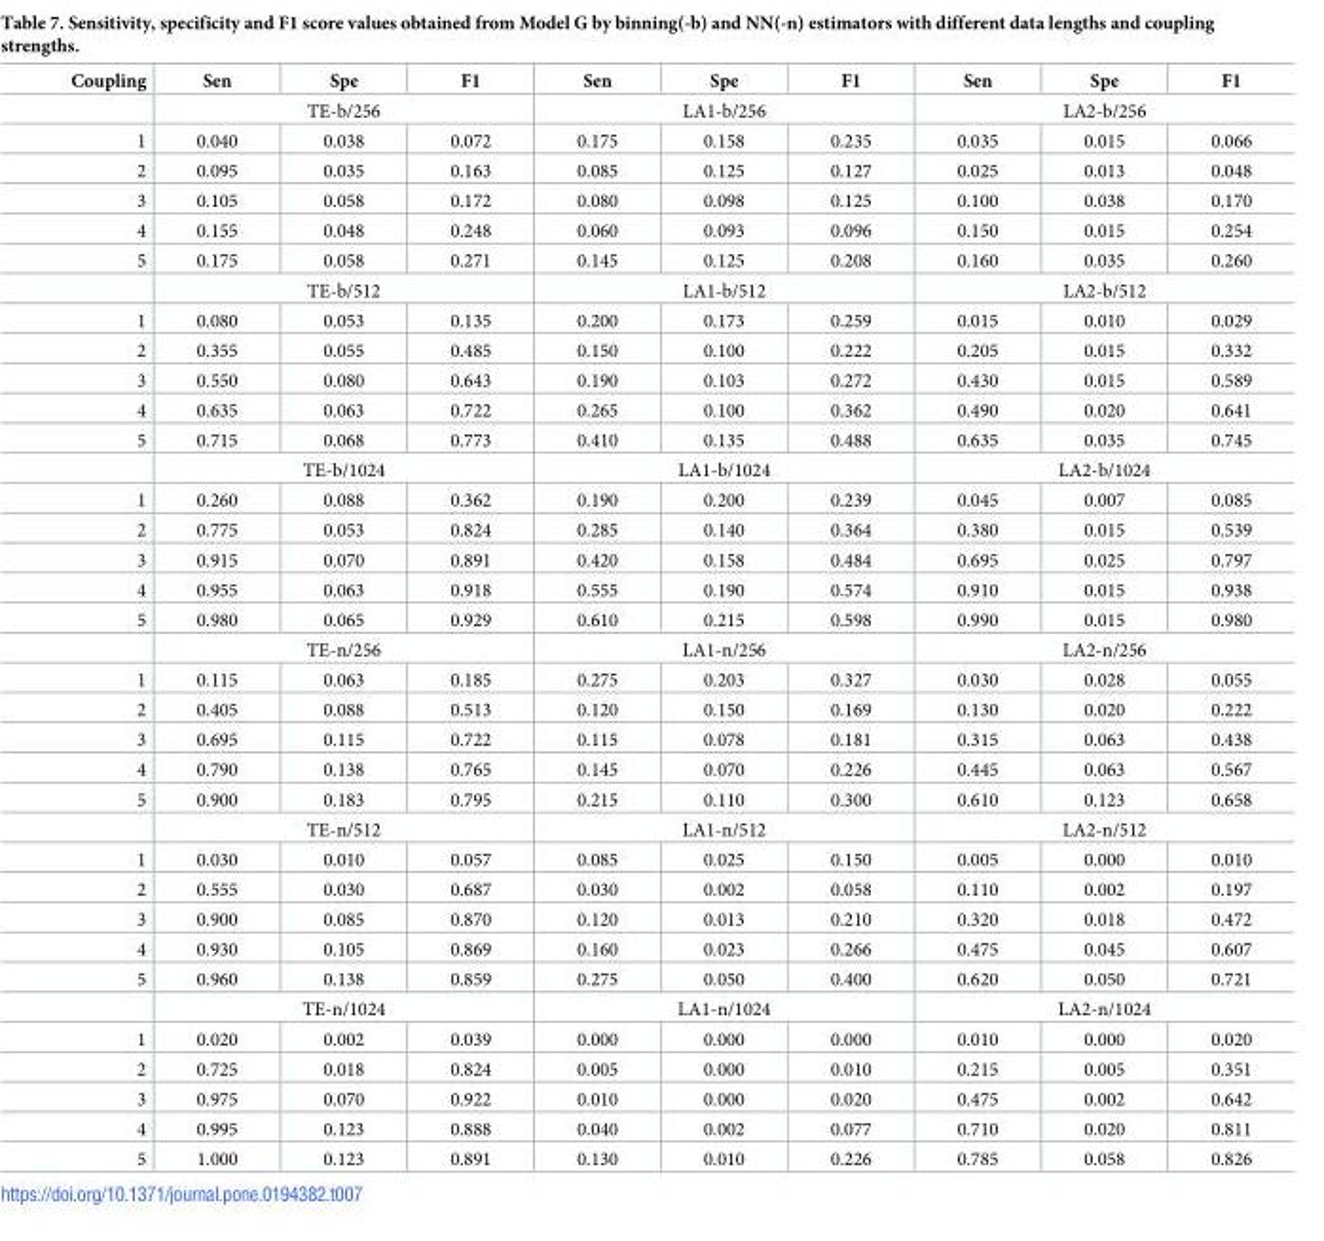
<table><thead><tr><td>Coupling</td><td>Sen</td><td>Spe</td><td>F1</td><td>Sen</td><td>Spe</td><td>F1</td><td>Sen</td><td>Spe</td><td>F1</td></tr></thead><tbody><tr><td></td><td colspan="3">TE-b/256</td><td colspan="3">LA1-b/256</td><td colspan="3">LA2-b/256</td></tr><tr><td>1</td><td>0.040</td><td>0.038</td><td>0.072</td><td>0.175</td><td>0.158</td><td>0.235</td><td>0.035</td><td>0.015</td><td>0.066</td></tr><tr><td>2</td><td>0.095</td><td>0.035</td><td>0.163</td><td>0.085</td><td>0.125</td><td>0.127</td><td>0.025</td><td>0.013</td><td>0.048</td></tr><tr><td>3</td><td>0.105</td><td>0.058</td><td>0.172</td><td>0.080</td><td>0.098</td><td>0.125</td><td>0.100</td><td>0.038</td><td>0.170</td></tr><tr><td>4</td><td>0.155</td><td>0.048</td><td>0.248</td><td>0.060</td><td>0.093</td><td>0.096</td><td>0.150</td><td>0.015</td><td>0.254</td></tr><tr><td rowspan="2">5</td><td>0.175</td><td>0.058</td><td>0.271</td><td>0.145</td><td>0.125</td><td>0.208</td><td>0.160</td><td>0.035</td><td>0.260</td></tr><tr><td colspan="3">TE-b/512</td><td colspan="3">LA1-b/512</td><td colspan="3">LA2-b/512</td></tr><tr><td>1</td><td>0.080</td><td>0.053</td><td>0.135</td><td>0.200</td><td>0.173</td><td>0.259</td><td>0.015</td><td>0.010</td><td>0.029</td></tr><tr><td>2</td><td>0.355</td><td>0.055</td><td>0.485</td><td>0.150</td><td>0.100</td><td>0.222</td><td>0.205</td><td>0.015</td><td>0.332</td></tr><tr><td>3</td><td>0.550</td><td>0.080</td><td>0.643</td><td>0.190</td><td>0.103</td><td>0.272</td><td>0.430</td><td>0.015</td><td>0.589</td></tr><tr><td>4</td><td>0.635</td><td>0.063</td><td>0.722</td><td>0.265</td><td>0.100</td><td>0.362</td><td>0.490</td><td>0.020</td><td>0.641</td></tr><tr><td rowspan="2">5</td><td>0.715</td><td>0.068</td><td>0.773</td><td>0.410</td><td>0.135</td><td>0.488</td><td>0.635</td><td>0.035</td><td>0.745</td></tr><tr><td colspan="3">TE-b/1024</td><td colspan="3">LA1-b/1024</td><td colspan="3">LA2-b/1024</td></tr><tr><td>1</td><td>0.260</td><td>0.088</td><td>0.362</td><td>0.190</td><td>0.200</td><td>0.239</td><td>0.045</td><td>0.007</td><td>0.085</td></tr><tr><td>2</td><td>0.775</td><td>0.053</td><td>0.824</td><td>0.285</td><td>0.140</td><td>0.364</td><td>0.380</td><td>0.015</td><td>0.539</td></tr><tr><td>3</td><td>0.915</td><td>0.070</td><td>0.891</td><td>0.420</td><td>0.158</td><td>0.484</td><td>0.695</td><td>0.025</td><td>0.797</td></tr><tr><td>4</td><td>0.955</td><td>0.063</td><td>0.918</td><td>0.555</td><td>0.190</td><td>0.574</td><td>0.910</td><td>0.015</td><td>0.938</td></tr><tr><td rowspan="2">5</td><td>0.980</td><td>0.065</td><td>0.929</td><td>0.610</td><td>0.215</td><td>0.598</td><td>0.990</td><td>0.015</td><td>0.980</td></tr><tr><td colspan="3">TE-n/256</td><td colspan="3">LA1-n/256</td><td colspan="3">LA2-n/256</td></tr><tr><td>1</td><td>0.115</td><td>0.063</td><td>0.185</td><td>0.275</td><td>0.203</td><td>0.327</td><td>0.030</td><td>0.028</td><td>0.055</td></tr><tr><td>2</td><td>0.405</td><td>0.088</td><td>0.513</td><td>0.120</td><td>0.150</td><td>0.169</td><td>0.130</td><td>0.020</td><td>0.222</td></tr><tr><td>3</td><td>0.695</td><td>0.115</td><td>0.722</td><td>0.115</td><td>0.078</td><td>0.181</td><td>0.315</td><td>0.063</td><td>0.438</td></tr><tr><td>4</td><td>0.790</td><td>0.138</td><td>0.765</td><td>0.145</td><td>0.070</td><td>0.226</td><td>0.445</td><td>0.063</td><td>0.567</td></tr><tr><td rowspan="2">5</td><td>0.900</td><td>0.183</td><td>0.795</td><td>0.215</td><td>0.110</td><td>0.300</td><td>0.610</td><td>0.123</td><td>0.658</td></tr><tr><td colspan="3">TE-n/512</td><td colspan="3">LA1-n/512</td><td colspan="3">LA2-n/512</td></tr><tr><td>1</td><td>0.030</td><td>0.010</td><td>0.057</td><td>0.085</td><td>0.025</td><td>0.150</td><td>0.005</td><td>0.000</td><td>0.010</td></tr><tr><td>2</td><td>0.555</td><td>0.030</td><td>0.687</td><td>0.030</td><td>0.002</td><td>0.058</td><td>0.110</td><td>0.002</td><td>0.197</td></tr><tr><td>3</td><td>0.900</td><td>0.085</td><td>0.870</td><td>0.120</td><td>0.013</td><td>0.210</td><td>0.320</td><td>0.018</td><td>0.472</td></tr><tr><td>4</td><td>0.930</td><td>0.105</td><td>0.869</td><td>0.160</td><td>0.023</td><td>0.266</td><td>0.475</td><td>0.045</td><td>0.607</td></tr><tr><td rowspan="2">5</td><td>0.960</td><td>0.138</td><td>0.859</td><td>0.275</td><td>0.050</td><td>0.400</td><td>0.620</td><td>0.050</td><td>0.721</td></tr><tr><td colspan="3">TE-n/1024</td><td colspan="3">LA1-n/1024</td><td colspan="3">LA2-n/1024</td></tr><tr><td>1</td><td>0.020</td><td>0.002</td><td>0.039</td><td>0.000</td><td>0.000</td><td>0.000</td><td>0.010</td><td>0.000</td><td>0.020</td></tr><tr><td>2</td><td>0.725</td><td>0.018</td><td>0.824</td><td>0.005</td><td>0.000</td><td>0.010</td><td>0.215</td><td>0.005</td><td>0.351</td></tr><tr><td>3</td><td>0.975</td><td>0.070</td><td>0.922</td><td>0.010</td><td>0.000</td><td>0.020</td><td>0.475</td><td>0.002</td><td>0.642</td></tr><tr><td>4</td><td>0.995</td><td>0.123</td><td>0.888</td><td>0.040</td><td>0.002</td><td>0.077</td><td>0.710</td><td>0.020</td><td>0.811</td></tr><tr><td>5</td><td>1.000</td><td>0.123</td><td>0.891</td><td>0.130</td><td>0.010</td><td>0.226</td><td>0.785</td><td>0.058</td><td>0.826</td></tr></tbody></table>